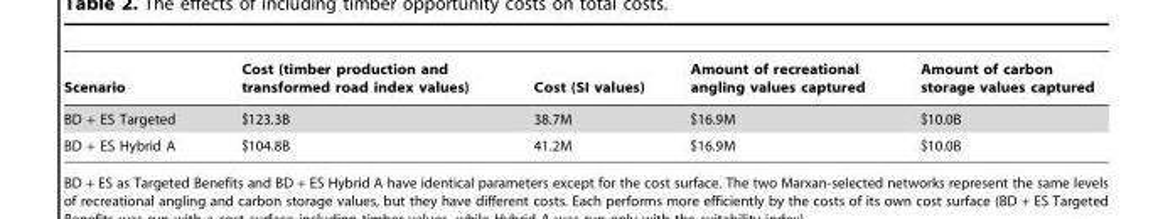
<table><thead><tr><td>Scenario</td><td>Cost (timber production and transformed road index values)</td><td>Cost (SI values)</td><td>Amount of recreational angling values captured</td><td>Amount of carbon storage values captured</td></tr></thead><tbody><tr><td>BD + ES Targeted</td><td>$123.3B</td><td>38.7M</td><td>$16.9M</td><td>$10.0B</td></tr><tr><td>BD + ES Hybrid A</td><td>$104.8B</td><td>41.2M</td><td>$16.9M</td><td>$10.0B</td></tr></tbody></table>